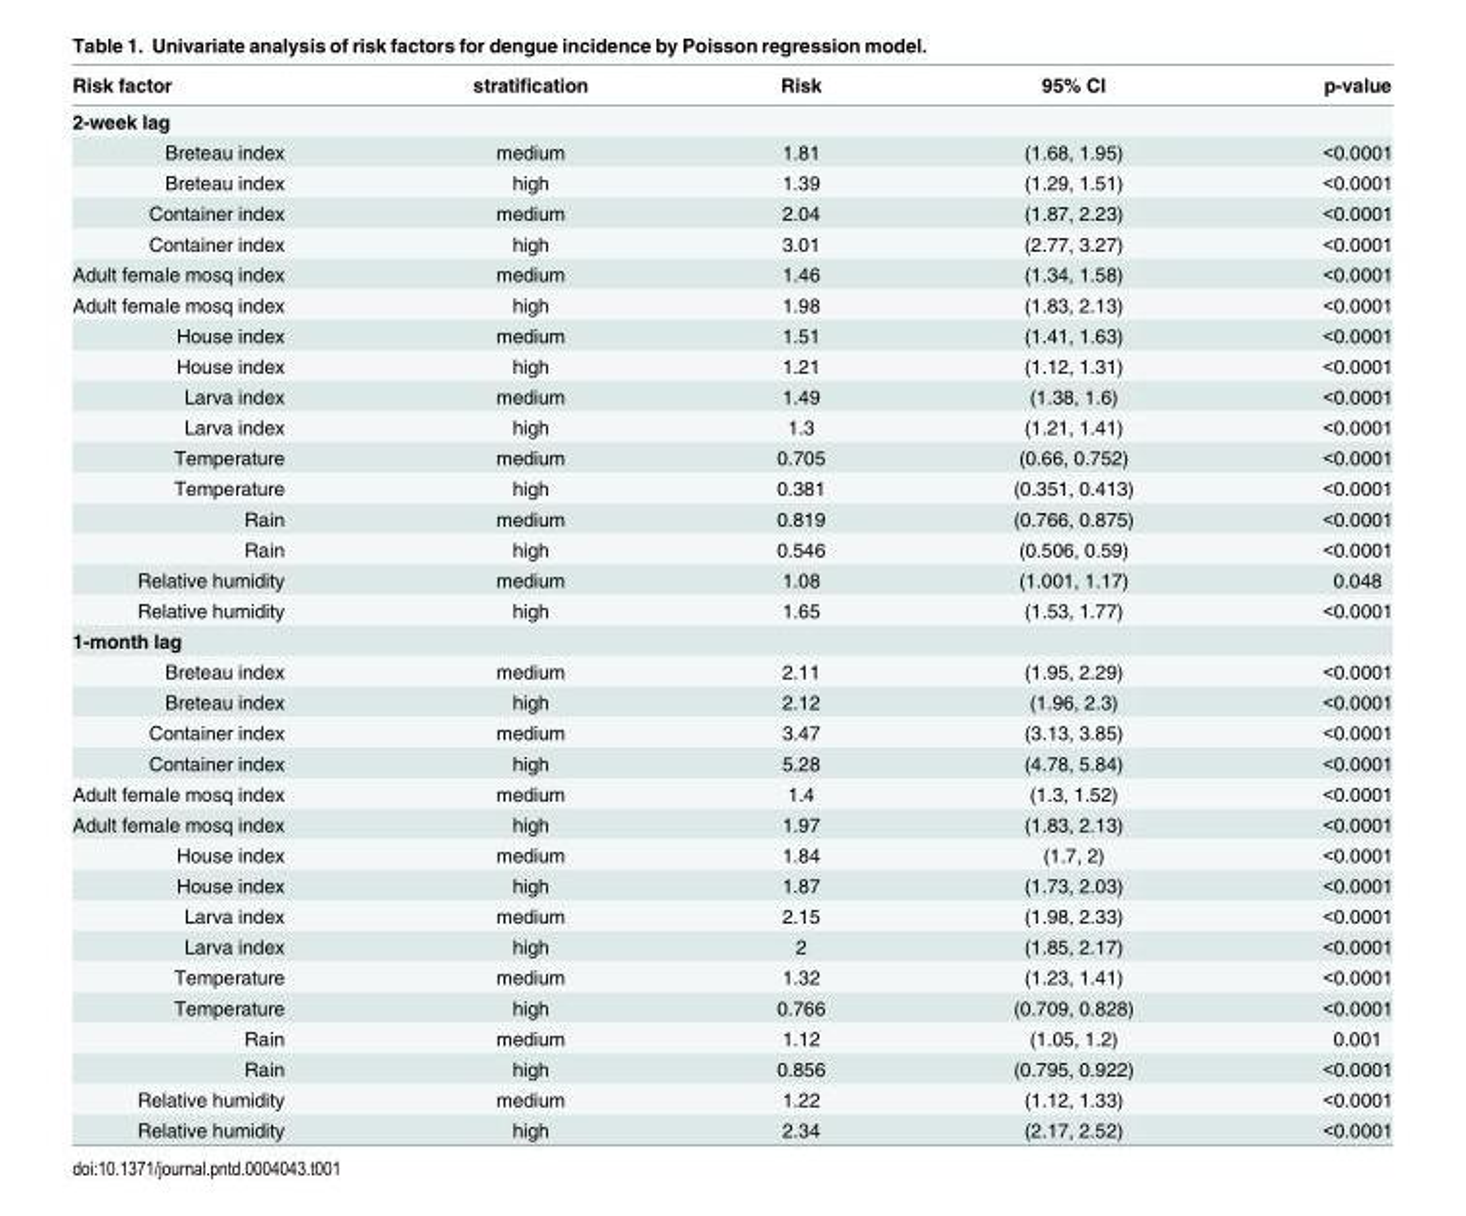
<table><thead><tr><td>Risk factor</td><td>stratification</td><td>Risk</td><td>95% CI</td><td>p-value</td></tr></thead><tbody><tr><td colspan="5">2-week lag</td></tr><tr><td>Breteau index</td><td>medium</td><td>1.81</td><td>(1.68, 1.95)</td><td>&lt;0.0001</td></tr><tr><td>Breteau index</td><td>high</td><td>1.39</td><td>(1.29, 1.51)</td><td>&lt;0.0001</td></tr><tr><td>Container index</td><td>medium</td><td>2.04</td><td>(1.87, 2.23)</td><td>&lt;0.0001</td></tr><tr><td>Container index</td><td>high</td><td>3.01</td><td>(2.77, 3.27)</td><td>&lt;0.0001</td></tr><tr><td>Adult female mosq index</td><td>medium</td><td>1.46</td><td>(1.34, 1.58)</td><td>&lt;0.0001</td></tr><tr><td>Adult female mosq index</td><td>high</td><td>1.98</td><td>(1.83, 2.13)</td><td>&lt;0.0001</td></tr><tr><td>House index</td><td>medium</td><td>1.51</td><td>(1.41, 1.63)</td><td>&lt;0.0001</td></tr><tr><td>House index</td><td>high</td><td>1.21</td><td>(1.12, 1.31)</td><td>&lt;0.0001</td></tr><tr><td>Larva index</td><td>medium</td><td>1.49</td><td>(1.38, 1.6)</td><td>&lt;0.0001</td></tr><tr><td>Larva index</td><td>high</td><td>1.3</td><td>(1.21, 1.41)</td><td>&lt;0.0001</td></tr><tr><td>Temperature</td><td>medium</td><td>0.705</td><td>(0.66, 0.752)</td><td>&lt;0.0001</td></tr><tr><td>Temperature</td><td>high</td><td>0.381</td><td>(0.351, 0.413)</td><td>&lt;0.0001</td></tr><tr><td>Rain</td><td>medium</td><td>0.819</td><td>(0.766, 0.875)</td><td>&lt;0.0001</td></tr><tr><td>Rain</td><td>high</td><td>0.546</td><td>(0.506, 0.59)</td><td>&lt;0.0001</td></tr><tr><td>Relative humidity</td><td>medium</td><td>1.08</td><td>(1.001, 1.17)</td><td>0.048</td></tr><tr><td>Relative humidity</td><td>high</td><td>1.65</td><td>(1.53, 1.77)</td><td>&lt;0.0001</td></tr><tr><td colspan="5">1-month lag</td></tr><tr><td>Breteau index</td><td>medium</td><td>2.11</td><td>(1.95, 2.29)</td><td>&lt;0.0001</td></tr><tr><td>Breteau index</td><td>high</td><td>2.12</td><td>(1.96, 2.3)</td><td>&lt;0.0001</td></tr><tr><td>Container index</td><td>medium</td><td>3.47</td><td>(3.13, 3.85)</td><td>&lt;0.0001</td></tr><tr><td>Container index</td><td>high</td><td>5.28</td><td>(4.78, 5.84)</td><td>&lt;0.0001</td></tr><tr><td>Adult female mosq index</td><td>medium</td><td>1.4</td><td>(1.3, 1.52)</td><td>&lt;0.0001</td></tr><tr><td>Adult female mosq index</td><td>high</td><td>1.97</td><td>(1.83, 2.13)</td><td>&lt;0.0001</td></tr><tr><td>House index</td><td>medium</td><td>1.84</td><td>(1.7, 2)</td><td>&lt;0.0001</td></tr><tr><td>House index</td><td>high</td><td>1.87</td><td>(1.73, 2.03)</td><td>&lt;0.0001</td></tr><tr><td>Larva index</td><td>medium</td><td>2.15</td><td>(1.98, 2.33)</td><td>&lt;0.0001</td></tr><tr><td>Larva index</td><td>high</td><td>2</td><td>(1.85, 2.17)</td><td>&lt;0.0001</td></tr><tr><td>Temperature</td><td>medium</td><td>1.32</td><td>(1.23, 1.41)</td><td>&lt;0.0001</td></tr><tr><td>Temperature</td><td>high</td><td>0.766</td><td>(0.709, 0.828)</td><td>&lt;0.0001</td></tr><tr><td>Rain</td><td>medium</td><td>1.12</td><td>(1.05, 1.2)</td><td>0.001</td></tr><tr><td>Rain</td><td>high</td><td>0.856</td><td>(0.795, 0.922)</td><td>&lt;0.0001</td></tr><tr><td>Relative humidity</td><td>medium</td><td>1.22</td><td>(1.12, 1.33)</td><td>&lt;0.0001</td></tr><tr><td>Relative humidity</td><td>high</td><td>2.34</td><td>(2.17, 2.52)</td><td>&lt;0.0001</td></tr></tbody></table>